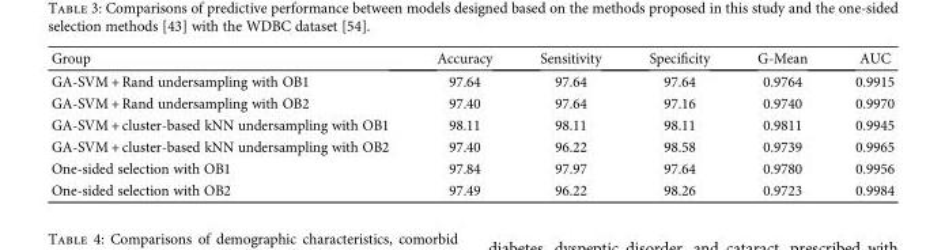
<table><thead><tr><td>Group</td><td>Accuracy</td><td>Sensitivity</td><td>Specificity</td><td>G-Mean</td><td>AUC</td></tr></thead><tbody><tr><td>GA-SVM + Rand undersampling with OB1</td><td>97.64</td><td>97.64</td><td>97.64</td><td>0.9764</td><td>0.9915</td></tr><tr><td>GA-SVM + Rand undersampling with OB2</td><td>97.40</td><td>97.64</td><td>97.16</td><td>0.9740</td><td>0.9970</td></tr><tr><td>GA-SVM + cluster-based kNN undersampling with OB1</td><td>98.11</td><td>98.11</td><td>98.11</td><td>0.9811</td><td>0.9945</td></tr><tr><td>GA-SVM + cluster-based kNN undersampling with OB2</td><td>97.40</td><td>96.22</td><td>98.58</td><td>0.9739</td><td>0.9965</td></tr><tr><td>One-sided selection with OB1</td><td>97.84</td><td>97.97</td><td>97.64</td><td>0.9780</td><td>0.9956</td></tr><tr><td>One-sided selection with OB2</td><td>97.49</td><td>96.22</td><td>98.26</td><td>0.9723</td><td>0.9984</td></tr></tbody></table>